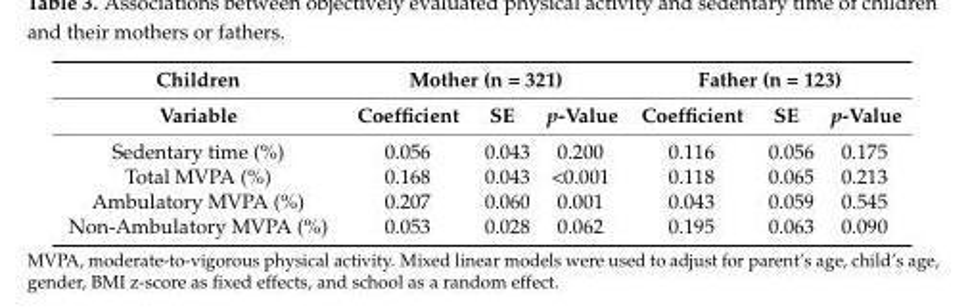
<table><thead><tr><td rowspan="2">Children Variable</td><td colspan="3">Mother (n = 321)</td><td colspan="3">Father (n = 123)</td></tr><tr><td>Coefficient</td><td>SE</td><td>p-Value</td><td>Coefficient</td><td>SE</td><td>p-Value</td></tr></thead><tbody><tr><td>Sedentary time (%)</td><td>0.056</td><td>0.043</td><td>0.200</td><td>0.116</td><td>0.056</td><td>0.175</td></tr><tr><td>Total MVPA (%)</td><td>0.168</td><td>0.043</td><td>&lt;0.001</td><td>0.118</td><td>0.065</td><td>0.213</td></tr><tr><td>Ambulatory MVPA (%)</td><td>0.207</td><td>0.060</td><td>0.001</td><td>0.043</td><td>0.059</td><td>0.545</td></tr><tr><td>Non-Ambulatory MVPA (%)</td><td>0.053</td><td>0.028</td><td>0.062</td><td>0.195</td><td>0.063</td><td>0.090</td></tr></tbody></table>